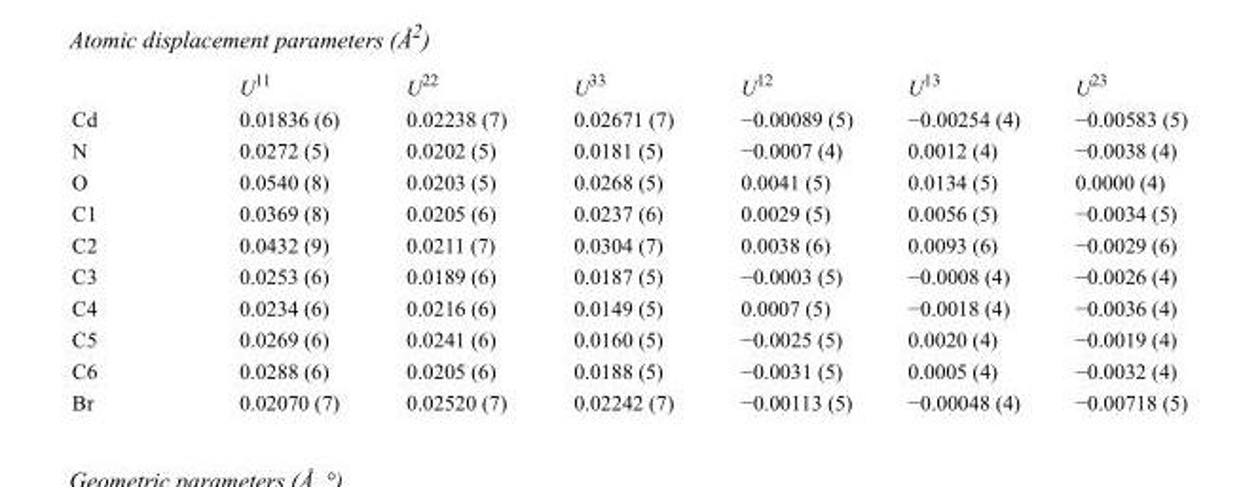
<table><thead><tr><td></td><td>U<sup>11</sup></td><td>U<sup>22</sup></td><td>U<sup>33</sup></td><td>U<sup>12</sup></td><td>U<sup>13</sup></td><td>U<sup>23</sup></td></tr></thead><tbody><tr><td>Cd</td><td>0.01836 (6)</td><td>0.02238 (7)</td><td>0.02671 (7)</td><td>−0.00089 (5)</td><td>−0.00254 (4)</td><td>−0.00583 (5)</td></tr><tr><td>N</td><td>0.0272 (5)</td><td>0.0202 (5)</td><td>0.0181 (5)</td><td>−0.0007 (4)</td><td>0.0012 (4)</td><td>−0.0038 (4)</td></tr><tr><td>O</td><td>0.0540 (8)</td><td>0.0203 (5)</td><td>0.0268 (5)</td><td>0.0041 (5)</td><td>0.0134 (5)</td><td>0.0000 (4)</td></tr><tr><td>C1</td><td>0.0369 (8)</td><td>0.0205 (6)</td><td>0.0237 (6)</td><td>0.0029 (5)</td><td>0.0056 (5)</td><td>−0.0034 (5)</td></tr><tr><td>C2</td><td>0.0432 (9)</td><td>0.0211 (7)</td><td>0.0304 (7)</td><td>0.0038 (6)</td><td>0.0093 (6)</td><td>−0.0029 (6)</td></tr><tr><td>C3</td><td>0.0253 (6)</td><td>0.0189 (6)</td><td>0.0187 (5)</td><td>−0.0003 (5)</td><td>−0.0008 (4)</td><td>−0.0026 (4)</td></tr><tr><td>C4</td><td>0.0234 (6)</td><td>0.0216 (6)</td><td>0.0149 (5)</td><td>0.0007 (5)</td><td>−0.0018 (4)</td><td>−0.0036 (4)</td></tr><tr><td>C5</td><td>0.0269 (6)</td><td>0.0241 (6)</td><td>0.0160 (5)</td><td>−0.0025 (5)</td><td>0.0020 (4)</td><td>−0.0019 (4)</td></tr><tr><td>C6</td><td>0.0288 (6)</td><td>0.0205 (6)</td><td>0.0188 (5)</td><td>−0.0031 (5)</td><td>0.0005 (4)</td><td>−0.0032 (4)</td></tr><tr><td>Br</td><td>0.02070 (7)</td><td>0.02520 (7)</td><td>0.02242 (7)</td><td>−0.00113 (5)</td><td>−0.00048 (4)</td><td>−0.00718 (5)</td></tr></tbody></table>